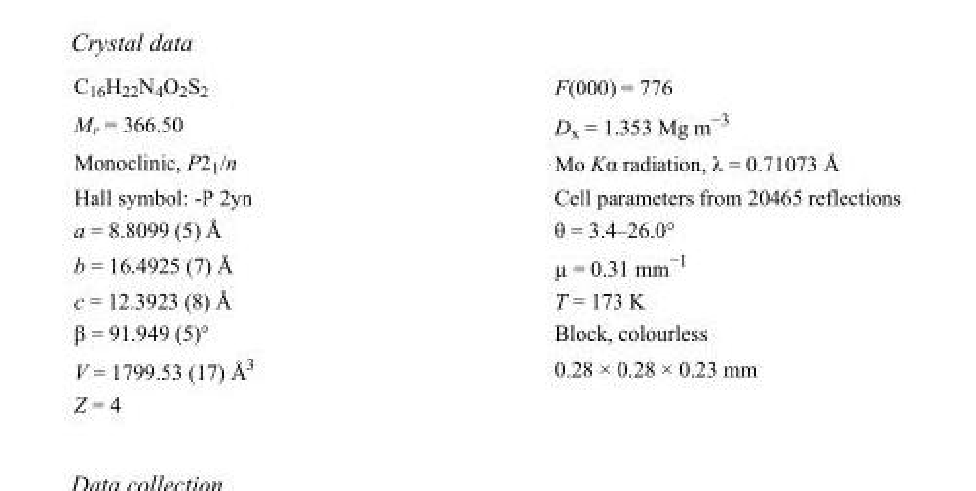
<table><tbody><tr><td>C<sub>16</sub>H<sub>22</sub>N<sub>4</sub>O<sub>2</sub>S<sub>2</sub></td><td>F(000) = 776</td></tr><tr><td>M<sub>r</sub> = 366.50</td><td>D<sub>x</sub> = 1.353 Mg m<sup>−3</sup></td></tr><tr><td>Monoclinic, P2<sub>1</sub>/n</td><td>Mo Kα radiation, λ = 0.71073 Å</td></tr><tr><td>Hall symbol: -P 2yn</td><td>Cell parameters from 20465 reflections</td></tr><tr><td>a = 8.8099 (5) Å</td><td>θ = 3.4–26.0°</td></tr><tr><td>b = 16.4925 (7) Å</td><td>µ = 0.31 mm<sup>−1</sup></td></tr><tr><td>c = 12.3923 (8) Å</td><td>T = 173 K</td></tr><tr><td>β = 91.949 (5)°</td><td>Block, colourless</td></tr><tr><td>V = 1799.53 (17) Å<sup>3</sup></td><td>0.28 × 0.28 × 0.23 mm</td></tr><tr><td>Z = 4</td><td></td></tr></tbody></table>